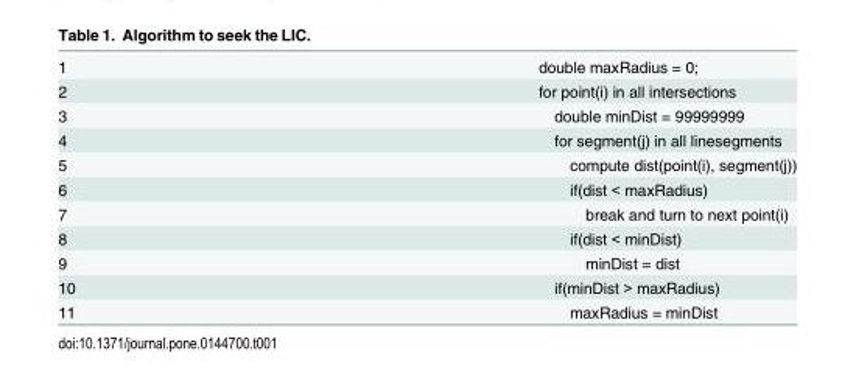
<table><tbody><tr><td>1</td><td>double maxRadius = 0;</td></tr><tr><td>2</td><td>for point(i) in all intersections</td></tr><tr><td>3</td><td>double minDist = 99999999</td></tr><tr><td>4</td><td>for segment(j) in all linesegments</td></tr><tr><td>5</td><td>compute dist(point(i), segment(j))</td></tr><tr><td>6</td><td>if(dist &lt; maxRadius)</td></tr><tr><td>7</td><td>break and turn to next point(i)</td></tr><tr><td>8</td><td>if(dist &lt; minDist)</td></tr><tr><td>9</td><td>minDist = dist</td></tr><tr><td>10</td><td>if(minDist &gt; maxRadius)</td></tr><tr><td>11</td><td>maxRadius = minDist</td></tr></tbody></table>